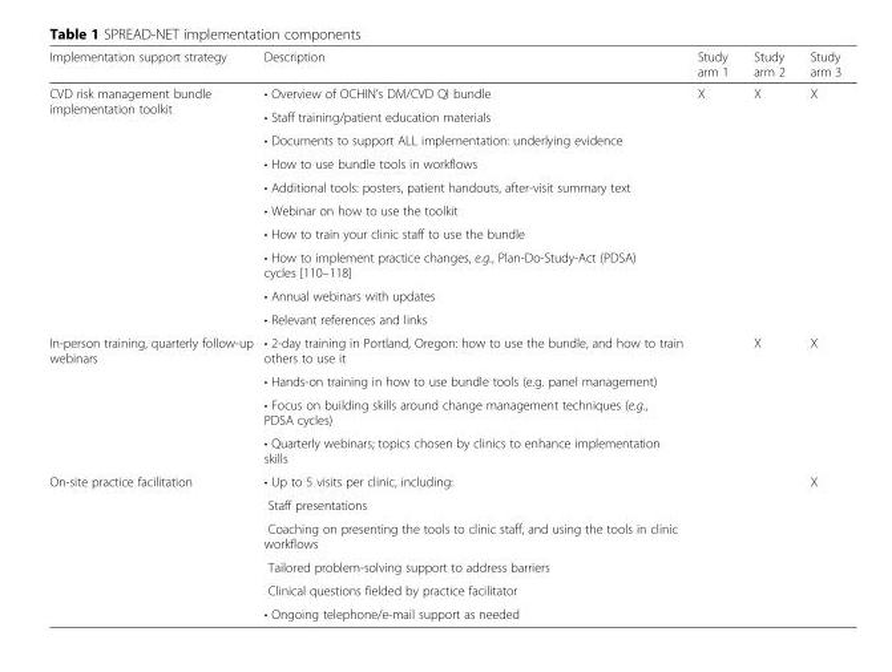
<table><thead><tr><td>Implementation support strategy</td><td>Description</td><td>Study arm 1</td><td>Study arm 2</td><td>Study arm 3</td></tr></thead><tbody><tr><td rowspan="10">CVD risk management bundle implementation toolkit</td><td>• Overview of OCHIN’s DM/CVD QI bundle</td><td rowspan="10">X</td><td rowspan="10">X</td><td rowspan="10">X</td></tr><tr><td>• Staff training/patient education materials</td></tr><tr><td>• Documents to support ALL implementation: underlying evidence</td></tr><tr><td>• How to use bundle tools in workflows</td></tr><tr><td>• Additional tools: posters, patient handouts, after-visit summary text</td></tr><tr><td>• Webinar on how to use the toolkit</td></tr><tr><td>• How to train your clinic staff to use the bundle</td></tr><tr><td>• How to implement practice changes, e.g., Plan-Do-Study-Act (PDSA) cycles [110–118]</td></tr><tr><td>• Annual webinars with updates</td></tr><tr><td>• Relevant references and links</td></tr><tr><td rowspan="4">In-person training, quarterly follow-up webinars</td><td>• 2-day training in Portland, Oregon: how to use the bundle, and how to train others to use it</td><td rowspan="4"></td><td rowspan="4">X</td><td rowspan="4">X</td></tr><tr><td>• Hands-on training in how to use bundle tools (e.g. panel management)</td></tr><tr><td>• Focus on building skills around change management techniques (e.g., PDSA cycles)</td></tr><tr><td>• Quarterly webinars; topics chosen by clinics to enhance implementation skills</td></tr><tr><td rowspan="6">On-site practice facilitation</td><td>• Up to 5 visits per clinic, including:</td><td rowspan="6"></td><td rowspan="6"></td><td rowspan="6">X</td></tr><tr><td>Staff presentations</td></tr><tr><td>Coaching on presenting the tools to clinic staff, and using the tools in clinic workflows</td></tr><tr><td>Tailored problem-solving support to address barriers</td></tr><tr><td>Clinical questions fielded by practice facilitator</td></tr><tr><td>• Ongoing telephone/e-mail support as needed</td></tr></tbody></table>